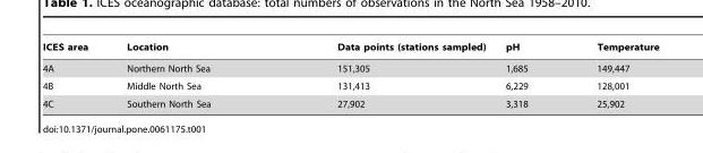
<table><thead><tr><td>ICES area</td><td>Location</td><td>Data points (stations sampled)</td><td>pH</td><td>Temperature</td></tr></thead><tbody><tr><td>4A</td><td>Northern North Sea</td><td>151,305</td><td>1,685</td><td>149,447</td></tr><tr><td>4B</td><td>Middle North Sea</td><td>131,413</td><td>6,229</td><td>128,001</td></tr><tr><td>4C</td><td>Southern North Sea</td><td>27,902</td><td>3,318</td><td>25,902</td></tr></tbody></table>